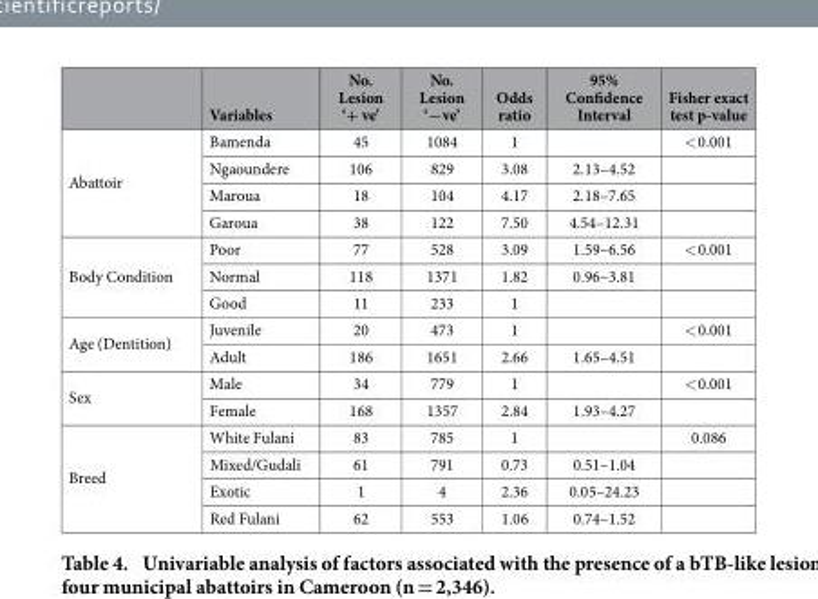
<table><thead><tr><td></td><td>Variables</td><td>No. Lesion ‘+ ve’</td><td>No. Lesion ‘−ve’</td><td>Odds ratio</td><td>95% Confidence Interval</td><td>Fisher exact test p-value</td></tr></thead><tbody><tr><td rowspan="4">Abattoir</td><td>Bamenda</td><td>45</td><td>1084</td><td>1</td><td></td><td>&lt; 0.001</td></tr><tr><td>Ngaoundere</td><td>106</td><td>829</td><td>3.08</td><td>2.13–4.52</td><td></td></tr><tr><td>Maroua</td><td>18</td><td>104</td><td>4.17</td><td>2.18–7.65</td><td></td></tr><tr><td>Garoua</td><td>38</td><td>122</td><td>7.50</td><td>4.54–12.31</td><td></td></tr><tr><td rowspan="3">Body Condition</td><td>Poor</td><td>77</td><td>528</td><td>3.09</td><td>1.59–6.56</td><td>&lt; 0.001</td></tr><tr><td>Normal</td><td>118</td><td>1371</td><td>1.82</td><td>0.96–3.81</td><td></td></tr><tr><td>Good</td><td>11</td><td>233</td><td>1</td><td></td><td></td></tr><tr><td rowspan="2">Age (Dentition)</td><td>Juvenile</td><td>20</td><td>473</td><td>1</td><td></td><td>&lt; 0.001</td></tr><tr><td>Adult</td><td>186</td><td>1651</td><td>2.66</td><td>1.65–4.51</td><td></td></tr><tr><td rowspan="2">Sex</td><td>Male</td><td>34</td><td>779</td><td>1</td><td></td><td>&lt; 0.001</td></tr><tr><td>Female</td><td>168</td><td>1357</td><td>2.84</td><td>1.93–4.27</td><td></td></tr><tr><td rowspan="4">Breed</td><td>White Fulani</td><td>83</td><td>785</td><td>1</td><td></td><td>0.086</td></tr><tr><td>Mixed/Gudali</td><td>61</td><td>791</td><td>0.73</td><td>0.51–1.04</td><td></td></tr><tr><td>Exotic</td><td>1</td><td>4</td><td>2.36</td><td>0.05–24.23</td><td></td></tr><tr><td>Red Fulani</td><td>62</td><td>553</td><td>1.06</td><td>0.74–1.52</td><td></td></tr></tbody></table>